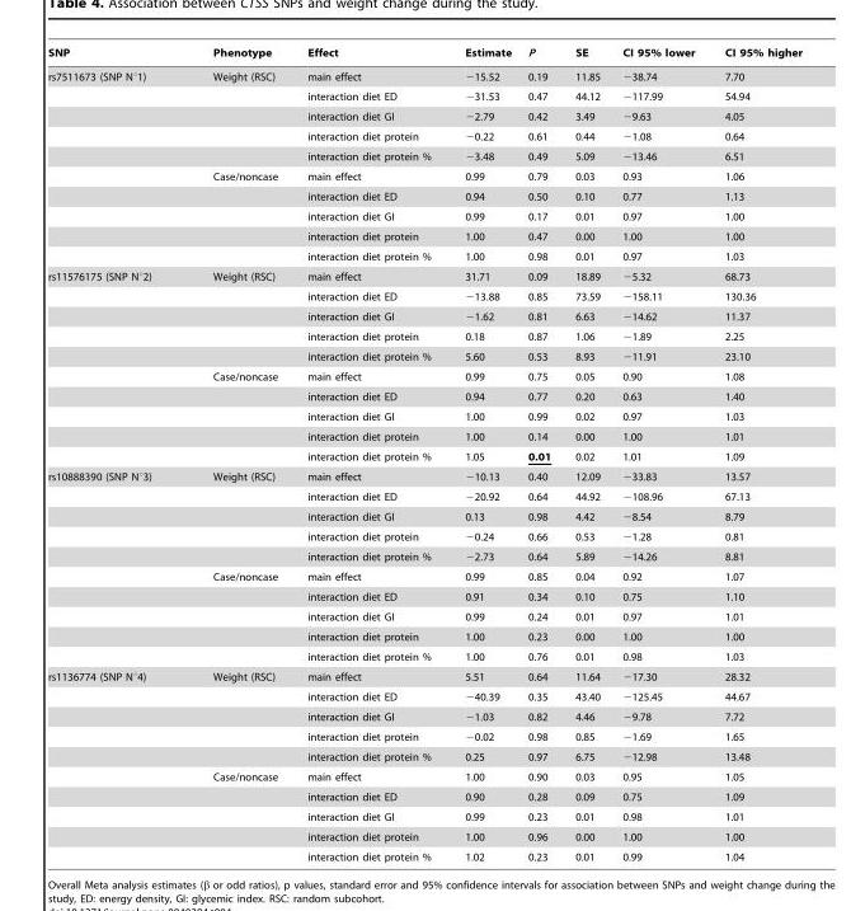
<table><thead><tr><td>SNP</td><td>Phenotype</td><td>Effect</td><td>Estimate</td><td>P</td><td>SE</td><td>CI 95% lower</td><td>CI 95% higher</td></tr></thead><tbody><tr><td rowspan="10">rs7511673 (SNP N°1)</td><td>Weight (RSC)</td><td>main effect</td><td>−15.52</td><td>0.19</td><td>11.85</td><td>−38.74</td><td>7.70</td></tr><tr><td></td><td>interaction diet ED</td><td>−31.53</td><td>0.47</td><td>44.12</td><td>−117.99</td><td>54.94</td></tr><tr><td></td><td>interaction diet GI</td><td>−2.79</td><td>0.42</td><td>3.49</td><td>−9.63</td><td>4.05</td></tr><tr><td></td><td>interaction diet protein</td><td>−0.22</td><td>0.61</td><td>0.44</td><td>−1.08</td><td>0.64</td></tr><tr><td></td><td>interaction diet protein %</td><td>−3.48</td><td>0.49</td><td>5.09</td><td>−13.46</td><td>6.51</td></tr><tr><td>Case/noncase</td><td>main effect</td><td>0.99</td><td>0.79</td><td>0.03</td><td>0.93</td><td>1.06</td></tr><tr><td></td><td>interaction diet ED</td><td>0.94</td><td>0.50</td><td>0.10</td><td>0.77</td><td>1.13</td></tr><tr><td></td><td>interaction diet GI</td><td>0.99</td><td>0.17</td><td>0.01</td><td>0.97</td><td>1.00</td></tr><tr><td></td><td>interaction diet protein</td><td>1.00</td><td>0.47</td><td>0.00</td><td>1.00</td><td>1.00</td></tr><tr><td></td><td>interaction diet protein %</td><td>1.00</td><td>0.98</td><td>0.01</td><td>0.97</td><td>1.03</td></tr><tr><td rowspan="10">rs11576175 (SNP N°2)</td><td>Weight (RSC)</td><td>main effect</td><td>31.71</td><td>0.09</td><td>18.89</td><td>−5.32</td><td>68.73</td></tr><tr><td></td><td>interaction diet ED</td><td>−13.88</td><td>0.85</td><td>73.59</td><td>−158.11</td><td>130.36</td></tr><tr><td></td><td>interaction diet GI</td><td>−1.62</td><td>0.81</td><td>6.63</td><td>−14.62</td><td>11.37</td></tr><tr><td></td><td>interaction diet protein</td><td>0.18</td><td>0.87</td><td>1.06</td><td>−1.89</td><td>2.25</td></tr><tr><td></td><td>interaction diet protein %</td><td>5.60</td><td>0.53</td><td>8.93</td><td>−11.91</td><td>23.10</td></tr><tr><td>Case/noncase</td><td>main effect</td><td>0.99</td><td>0.75</td><td>0.05</td><td>0.90</td><td>1.08</td></tr><tr><td></td><td>interaction diet ED</td><td>0.94</td><td>0.77</td><td>0.20</td><td>0.63</td><td>1.40</td></tr><tr><td></td><td>interaction diet GI</td><td>1.00</td><td>0.99</td><td>0.02</td><td>0.97</td><td>1.03</td></tr><tr><td></td><td>interaction diet protein</td><td>1.00</td><td>0.14</td><td>0.00</td><td>1.00</td><td>1.01</td></tr><tr><td></td><td>interaction diet protein %</td><td>1.05</td><td>0.01</td><td>0.02</td><td>1.01</td><td>1.09</td></tr><tr><td rowspan="10">rs10888390 (SNP N°3)</td><td>Weight (RSC)</td><td>main effect</td><td>−10.13</td><td>0.40</td><td>12.09</td><td>−33.83</td><td>13.57</td></tr><tr><td></td><td>interaction diet ED</td><td>−20.92</td><td>0.64</td><td>44.92</td><td>−108.96</td><td>67.13</td></tr><tr><td></td><td>interaction diet GI</td><td>0.13</td><td>0.98</td><td>4.42</td><td>−8.54</td><td>8.79</td></tr><tr><td></td><td>interaction diet protein</td><td>−0.24</td><td>0.66</td><td>0.53</td><td>−1.28</td><td>0.81</td></tr><tr><td></td><td>interaction diet protein %</td><td>−2.73</td><td>0.64</td><td>5.89</td><td>−14.26</td><td>8.81</td></tr><tr><td>Case/noncase</td><td>main effect</td><td>0.99</td><td>0.85</td><td>0.04</td><td>0.92</td><td>1.07</td></tr><tr><td></td><td>interaction diet ED</td><td>0.91</td><td>0.34</td><td>0.10</td><td>0.75</td><td>1.10</td></tr><tr><td></td><td>interaction diet GI</td><td>0.99</td><td>0.24</td><td>0.01</td><td>0.97</td><td>1.01</td></tr><tr><td></td><td>interaction diet protein</td><td>1.00</td><td>0.23</td><td>0.00</td><td>1.00</td><td>1.00</td></tr><tr><td></td><td>interaction diet protein %</td><td>1.00</td><td>0.76</td><td>0.01</td><td>0.98</td><td>1.03</td></tr><tr><td rowspan="10">rs1136774 (SNP N°4)</td><td>Weight (RSC)</td><td>main effect</td><td>5.51</td><td>0.64</td><td>11.64</td><td>−17.30</td><td>28.32</td></tr><tr><td></td><td>interaction diet ED</td><td>−40.39</td><td>0.35</td><td>43.40</td><td>−125.45</td><td>44.67</td></tr><tr><td></td><td>interaction diet GI</td><td>−1.03</td><td>0.82</td><td>4.46</td><td>−9.78</td><td>7.72</td></tr><tr><td></td><td>interaction diet protein</td><td>−0.02</td><td>0.98</td><td>0.85</td><td>−1.69</td><td>1.65</td></tr><tr><td></td><td>interaction diet protein %</td><td>0.25</td><td>0.97</td><td>6.75</td><td>−12.98</td><td>13.48</td></tr><tr><td>Case/noncase</td><td>main effect</td><td>1.00</td><td>0.90</td><td>0.03</td><td>0.95</td><td>1.05</td></tr><tr><td></td><td>interaction diet ED</td><td>0.90</td><td>0.28</td><td>0.09</td><td>0.75</td><td>1.09</td></tr><tr><td></td><td>interaction diet GI</td><td>0.99</td><td>0.23</td><td>0.01</td><td>0.98</td><td>1.01</td></tr><tr><td></td><td>interaction diet protein</td><td>1.00</td><td>0.96</td><td>0.00</td><td>1.00</td><td>1.00</td></tr><tr><td></td><td>interaction diet protein %</td><td>1.02</td><td>0.23</td><td>0.01</td><td>0.99</td><td>1.04</td></tr></tbody></table>